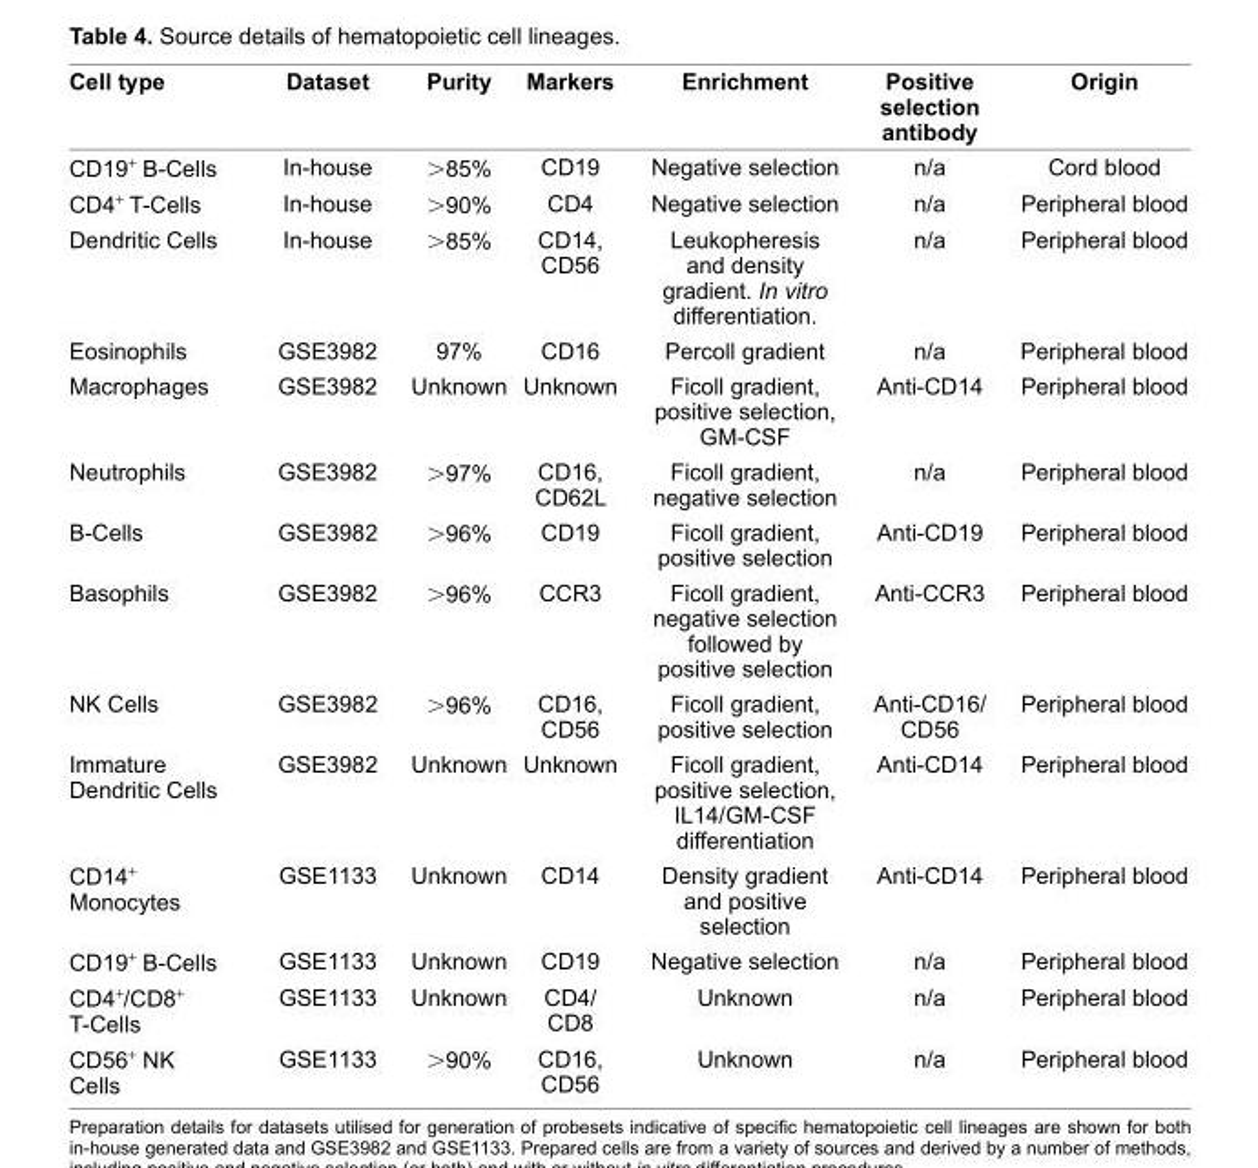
<table><thead><tr><td>Cell type</td><td>Dataset</td><td>Purity</td><td>Markers</td><td>Enrichment</td><td>Positive selection antibody</td><td>Origin</td></tr></thead><tbody><tr><td>CD19<sup>+</sup> B-Cells</td><td>In-house</td><td>&gt;85%</td><td>CD19</td><td>Negative selection</td><td>n/a</td><td>Cord blood</td></tr><tr><td>CD4<sup>+</sup> T-Cells</td><td>In-house</td><td>&gt;90%</td><td>CD4</td><td>Negative selection</td><td>n/a</td><td>Peripheral blood</td></tr><tr><td>Dendritic Cells</td><td>In-house</td><td>&gt;85%</td><td>CD14, CD56</td><td>Leukopheresis and density gradient. In vitro differentiation.</td><td>n/a</td><td>Peripheral blood</td></tr><tr><td>Eosinophils</td><td>GSE3982</td><td>97%</td><td>CD16</td><td>Percoll gradient</td><td>n/a</td><td>Peripheral blood</td></tr><tr><td>Macrophages</td><td>GSE3982</td><td>Unknown</td><td>Unknown</td><td>Ficoll gradient, positive selection, GM-CSF</td><td>Anti-CD14</td><td>Peripheral blood</td></tr><tr><td>Neutrophils</td><td>GSE3982</td><td>&gt;97%</td><td>CD16, CD62L</td><td>Ficoll gradient, negative selection</td><td>n/a</td><td>Peripheral blood</td></tr><tr><td>B-Cells</td><td>GSE3982</td><td>&gt;96%</td><td>CD19</td><td>Ficoll gradient, positive selection</td><td>Anti-CD19</td><td>Peripheral blood</td></tr><tr><td>Basophils</td><td>GSE3982</td><td>&gt;96%</td><td>CCR3</td><td>Ficoll gradient, negative selection followed by positive selection</td><td>Anti-CCR3</td><td>Peripheral blood</td></tr><tr><td>NK Cells</td><td>GSE3982</td><td>&gt;96%</td><td>CD16, CD56</td><td>Ficoll gradient, positive selection</td><td>Anti-CD16/ CD56</td><td>Peripheral blood</td></tr><tr><td>Immature Dendritic Cells</td><td>GSE3982</td><td>Unknown</td><td>Unknown</td><td>Ficoll gradient, positive selection, IL14/GM-CSF differentiation</td><td>Anti-CD14</td><td>Peripheral blood</td></tr><tr><td>CD14<sup>+</sup> Monocytes</td><td>GSE1133</td><td>Unknown</td><td>CD14</td><td>Density gradient and positive selection</td><td>Anti-CD14</td><td>Peripheral blood</td></tr><tr><td>CD19<sup>+</sup> B-Cells</td><td>GSE1133</td><td>Unknown</td><td>CD19</td><td>Negative selection</td><td>n/a</td><td>Peripheral blood</td></tr><tr><td>CD4<sup>+</sup>/CD8<sup>+</sup> T-Cells</td><td>GSE1133</td><td>Unknown</td><td>CD4/ CD8</td><td>Unknown</td><td>n/a</td><td>Peripheral blood</td></tr><tr><td>CD56<sup>+</sup> NK Cells</td><td>GSE1133</td><td>&gt;90%</td><td>CD16, CD56</td><td>Unknown</td><td>n/a</td><td>Peripheral blood</td></tr></tbody></table>